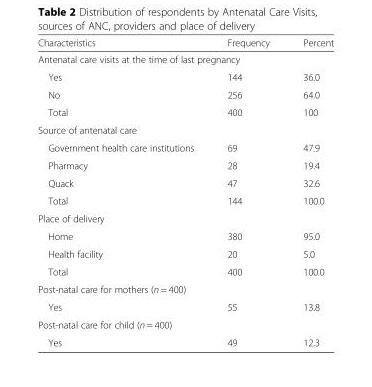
<table><thead><tr><td>Characteristics</td><td>Frequency</td><td>Percent</td></tr></thead><tbody><tr><td colspan="3">Antenatal care visits at the time of last pregnancy</td></tr><tr><td>Yes</td><td>144</td><td>36.0</td></tr><tr><td>No</td><td>256</td><td>64.0</td></tr><tr><td>Total</td><td>400</td><td>100</td></tr><tr><td colspan="3">Source of antenatal care</td></tr><tr><td>Government health care institutions</td><td>69</td><td>47.9</td></tr><tr><td>Pharmacy</td><td>28</td><td>19.4</td></tr><tr><td>Quack</td><td>47</td><td>32.6</td></tr><tr><td>Total</td><td>144</td><td>100.0</td></tr><tr><td colspan="3">Place of delivery</td></tr><tr><td>Home</td><td>380</td><td>95.0</td></tr><tr><td>Health facility</td><td>20</td><td>5.0</td></tr><tr><td>Total</td><td>400</td><td>100.0</td></tr><tr><td colspan="3">Post-natal care for mothers (n = 400)</td></tr><tr><td>Yes</td><td>55</td><td>13.8</td></tr><tr><td colspan="3">Post-natal care for child (n = 400)</td></tr><tr><td>Yes</td><td>49</td><td>12.3</td></tr></tbody></table>